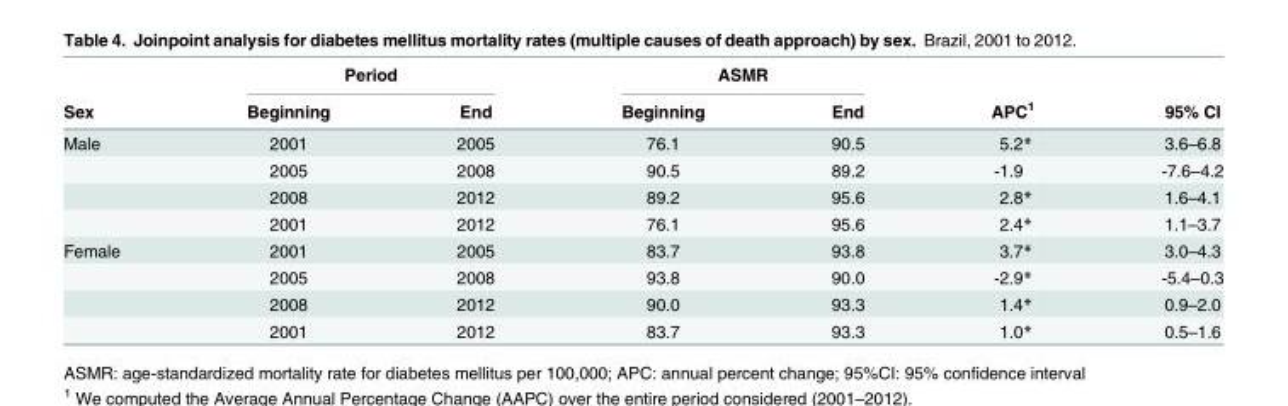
<table><thead><tr><td rowspan="2">Sex</td><td colspan="2">Period</td><td colspan="2">ASMR</td><td rowspan="2">APC<sup>1</sup></td><td rowspan="2">95% CI</td></tr><tr><td>Beginning</td><td>End</td><td>Beginning</td><td>End</td></tr></thead><tbody><tr><td rowspan="4">Male</td><td>2001</td><td>2005</td><td>76.1</td><td>90.5</td><td>5.2*</td><td>3.6–6.8</td></tr><tr><td>2005</td><td>2008</td><td>90.5</td><td>89.2</td><td>-1.9</td><td>-7.6–4.2</td></tr><tr><td>2008</td><td>2012</td><td>89.2</td><td>95.6</td><td>2.8*</td><td>1.6–4.1</td></tr><tr><td>2001</td><td>2012</td><td>76.1</td><td>95.6</td><td>2.4*</td><td>1.1–3.7</td></tr><tr><td rowspan="4">Female</td><td>2001</td><td>2005</td><td>83.7</td><td>93.8</td><td>3.7*</td><td>3.0–4.3</td></tr><tr><td>2005</td><td>2008</td><td>93.8</td><td>90.0</td><td>-2.9*</td><td>-5.4–0.3</td></tr><tr><td>2008</td><td>2012</td><td>90.0</td><td>93.3</td><td>1.4*</td><td>0.9–2.0</td></tr><tr><td>2001</td><td>2012</td><td>83.7</td><td>93.3</td><td>1.0*</td><td>0.5–1.6</td></tr></tbody></table>